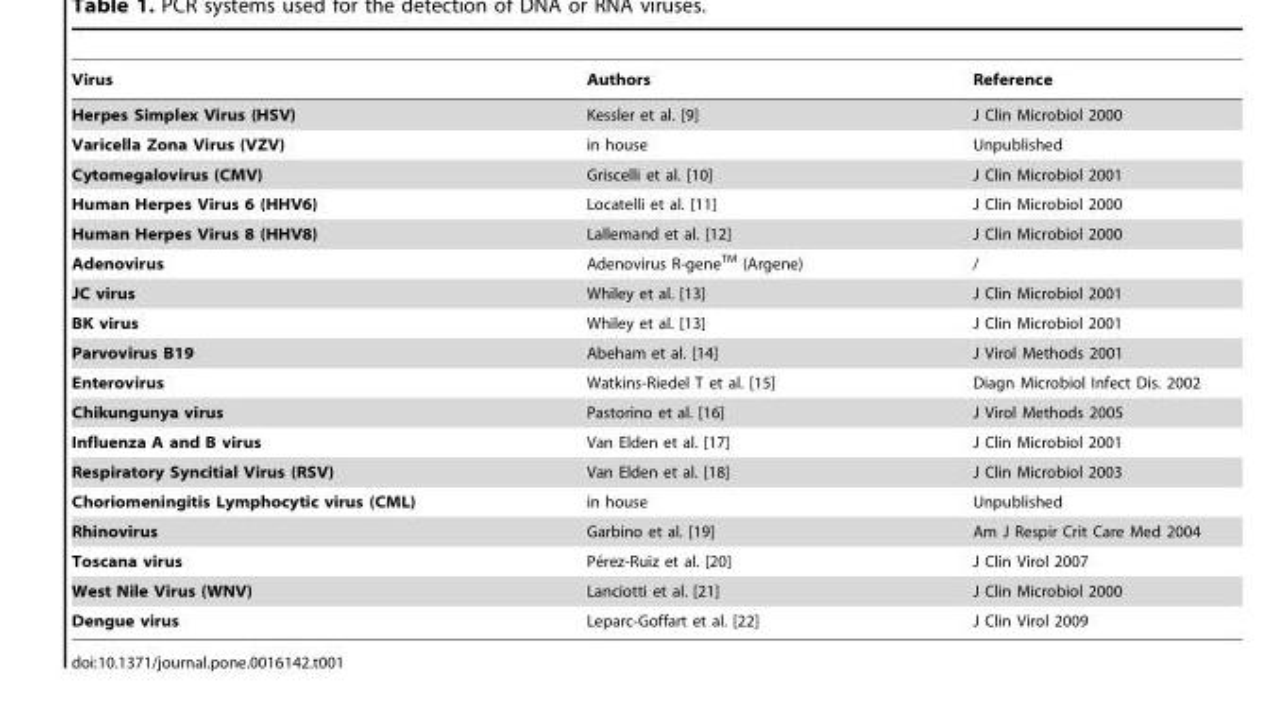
<table><thead><tr><td>Virus</td><td>Authors</td><td>Reference</td></tr></thead><tbody><tr><td>Herpes Simplex Virus (HSV)</td><td>Kessler et al. [9]</td><td>J Clin Microbiol 2000</td></tr><tr><td>Varicella Zona Virus (VZV)</td><td>in house</td><td>Unpublished</td></tr><tr><td>Cytomegalovirus (CMV)</td><td>Griscelli et al. [10]</td><td>J Clin Microbiol 2001</td></tr><tr><td>Human Herpes Virus 6 (HHV6)</td><td>Locatelli et al. [11]</td><td>J Clin Microbiol 2000</td></tr><tr><td>Human Herpes Virus 8 (HHV8)</td><td>Lallemand et al. [12]</td><td>J Clin Microbiol 2000</td></tr><tr><td>Adenovirus</td><td>Adenovirus R-geneTM (Argene)</td><td>/</td></tr><tr><td>JC virus</td><td>Whiley et al. [13]</td><td>J Clin Microbiol 2001</td></tr><tr><td>BK virus</td><td>Whiley et al. [13]</td><td>J Clin Microbiol 2001</td></tr><tr><td>Parvovirus B19</td><td>Abeham et al. [14]</td><td>J Virol Methods 2001</td></tr><tr><td>Enterovirus</td><td>Watkins-Riedel T et al. [15]</td><td>Diagn Microbiol Infect Dis. 2002</td></tr><tr><td>Chikungunya virus</td><td>Pastorino et al. [16]</td><td>J Virol Methods 2005</td></tr><tr><td>Influenza A and B virus</td><td>Van Elden et al. [17]</td><td>J Clin Microbiol 2001</td></tr><tr><td>Respiratory Syncitial Virus (RSV)</td><td>Van Elden et al. [18]</td><td>J Clin Microbiol 2003</td></tr><tr><td>Choriomeningitis Lymphocytic virus (CML)</td><td>in house</td><td>Unpublished</td></tr><tr><td>Rhinovirus</td><td>Garbino et al. [19]</td><td>Am J Respir Crit Care Med 2004</td></tr><tr><td>Toscana virus</td><td>Pe´rez-Ruiz et al. [20]</td><td>J Clin Virol 2007</td></tr><tr><td>West Nile Virus (WNV)</td><td>Lanciotti et al. [21]</td><td>J Clin Microbiol 2000</td></tr><tr><td>Dengue virus</td><td>Leparc-Goffart et al. [22]</td><td>J Clin Virol 2009</td></tr></tbody></table>